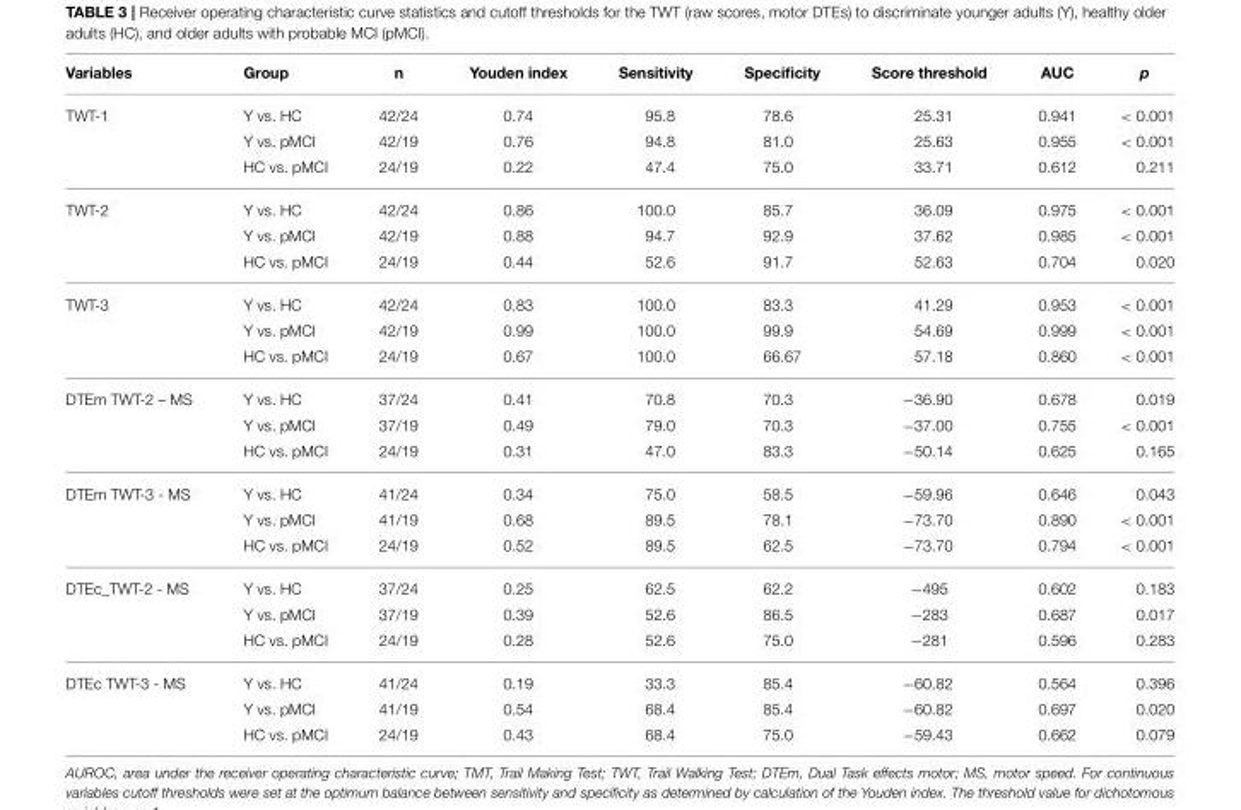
<table><thead><tr><td>Variables</td><td>Group</td><td>n</td><td>Youden index</td><td>Sensitivity</td><td>Specificity</td><td>Score threshold</td><td>AUC</td><td>p</td></tr></thead><tbody><tr><td rowspan="3">TWT-1</td><td>Y vs. HC</td><td>42/24</td><td>0.74</td><td>95.8</td><td>78.6</td><td>25.31</td><td>0.941</td><td>&lt; 0.001</td></tr><tr><td>Y vs. pMCI</td><td>42/19</td><td>0.76</td><td>94.8</td><td>81.0</td><td>25.63</td><td>0.955</td><td>&lt; 0.001</td></tr><tr><td>HC vs. pMCI</td><td>24/19</td><td>0.22</td><td>47.4</td><td>75.0</td><td>33.71</td><td>0.612</td><td>0.211</td></tr><tr><td rowspan="3">TWT-2</td><td>Y vs. HC</td><td>42/24</td><td>0.86</td><td>100.0</td><td>85.7</td><td>36.09</td><td>0.975</td><td>&lt; 0.001</td></tr><tr><td>Y vs. pMCI</td><td>42/19</td><td>0.88</td><td>94.7</td><td>92.9</td><td>37.62</td><td>0.985</td><td>&lt; 0.001</td></tr><tr><td>HC vs. pMCI</td><td>24/19</td><td>0.44</td><td>52.6</td><td>91.7</td><td>52.63</td><td>0.704</td><td>0.020</td></tr><tr><td rowspan="3">TWT-3</td><td>Y vs. HC</td><td>42/24</td><td>0.83</td><td>100.0</td><td>83.3</td><td>41.29</td><td>0.953</td><td>&lt; 0.001</td></tr><tr><td>Y vs. pMCI</td><td>42/19</td><td>0.99</td><td>100.0</td><td>99.9</td><td>54.69</td><td>0.999</td><td>&lt; 0.001</td></tr><tr><td>HC vs. pMCI</td><td>24/19</td><td>0.67</td><td>100.0</td><td>66.67</td><td>57.18</td><td>0.860</td><td>&lt; 0.001</td></tr><tr><td rowspan="3">DTEm TWT-2 – MS</td><td>Y vs. HC</td><td>37/24</td><td>0.41</td><td>70.8</td><td>70.3</td><td>−36.90</td><td>0.678</td><td>0.019</td></tr><tr><td>Y vs. pMCI</td><td>37/19</td><td>0.49</td><td>79.0</td><td>70.3</td><td>−37.00</td><td>0.755</td><td>&lt; 0.001</td></tr><tr><td>HC vs. pMCI</td><td>24/19</td><td>0.31</td><td>47.0</td><td>83.3</td><td>−50.14</td><td>0.625</td><td>0.165</td></tr><tr><td rowspan="3">DTEm TWT-3 - MS</td><td>Y vs. HC</td><td>41/24</td><td>0.34</td><td>75.0</td><td>58.5</td><td>−59.96</td><td>0.646</td><td>0.043</td></tr><tr><td>Y vs. pMCI</td><td>41/19</td><td>0.68</td><td>89.5</td><td>78.1</td><td>−73.70</td><td>0.890</td><td>&lt; 0.001</td></tr><tr><td>HC vs. pMCI</td><td>24/19</td><td>0.52</td><td>89.5</td><td>62.5</td><td>−73.70</td><td>0.794</td><td>&lt; 0.001</td></tr><tr><td rowspan="3">DTEc_TWT-2 - MS</td><td>Y vs. HC</td><td>37/24</td><td>0.25</td><td>62.5</td><td>62.2</td><td>−495</td><td>0.602</td><td>0.183</td></tr><tr><td>Y vs. pMCI</td><td>37/19</td><td>0.39</td><td>52.6</td><td>86.5</td><td>−283</td><td>0.687</td><td>0.017</td></tr><tr><td>HC vs. pMCI</td><td>24/19</td><td>0.28</td><td>52.6</td><td>75.0</td><td>−281</td><td>0.596</td><td>0.283</td></tr><tr><td rowspan="3">DTEc TWT-3 - MS</td><td>Y vs. HC</td><td>41/24</td><td>0.19</td><td>33.3</td><td>85.4</td><td>−60.82</td><td>0.564</td><td>0.396</td></tr><tr><td>Y vs. pMCI</td><td>41/19</td><td>0.54</td><td>68.4</td><td>85.4</td><td>−60.82</td><td>0.697</td><td>0.020</td></tr><tr><td>HC vs. pMCI</td><td>24/19</td><td>0.43</td><td>68.4</td><td>75.0</td><td>−59.43</td><td>0.662</td><td>0.079</td></tr></tbody></table>